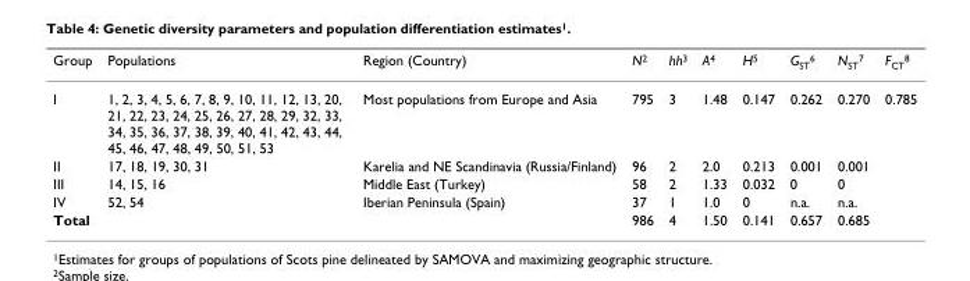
<table><thead><tr><td>Group</td><td>Populations</td><td>Region (Country)</td><td>N<sup>2</sup></td><td>hh<sup>3</sup></td><td>A<sup>4</sup></td><td>H<sup>5</sup></td><td>G<sub>ST</sub><sup>6</sup></td><td>N<sub>ST</sub><sup>7</sup></td><td>F<sub>CT</sub><sup>8</sup></td></tr></thead><tbody><tr><td>I</td><td>1, 2, 3, 4, 5, 6, 7, 8, 9, 10, 11, 12, 13, 20, 21, 22, 23, 24, 25, 26, 27, 28, 29, 32, 33, 34, 35, 36, 37, 38, 39, 40, 41, 42, 43, 44, 45, 46, 47, 48, 49, 50, 51, 53</td><td>Most populations from Europe and Asia</td><td>795</td><td>3</td><td>1.48</td><td>0.147</td><td>0.262</td><td>0.270</td><td>0.785</td></tr><tr><td>II</td><td>17, 18, 19, 30, 31</td><td>Karelia and NE Scandinavia (Russia/Finland)</td><td>96</td><td>2</td><td>2.0</td><td>0.213</td><td>0.001</td><td>0.001</td><td></td></tr><tr><td>III</td><td>14, 15, 16</td><td>Middle East (Turkey)</td><td>58</td><td>2</td><td>1.33</td><td>0.032</td><td>0</td><td>0</td><td></td></tr><tr><td>IV</td><td>52, 54</td><td>Iberian Peninsula (Spain)</td><td>37</td><td>1</td><td>1.0</td><td>0</td><td>n.a.</td><td>n.a.</td><td></td></tr><tr><td>Total</td><td></td><td></td><td>986</td><td>4</td><td>1.50</td><td>0.141</td><td>0.657</td><td>0.685</td><td></td></tr></tbody></table>